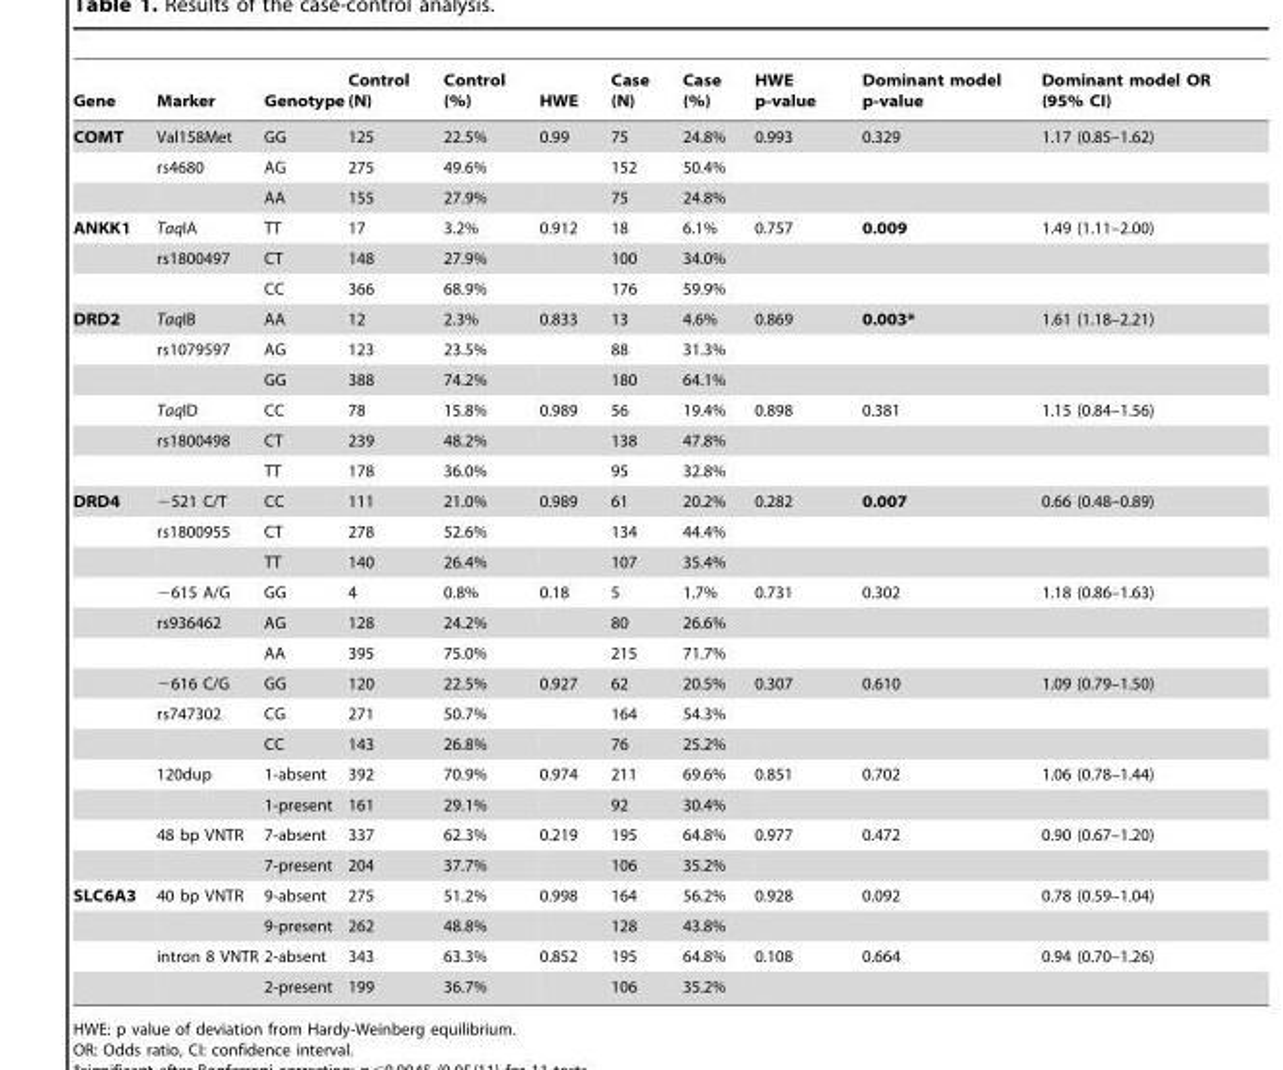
<table><thead><tr><td>Gene</td><td>Marker</td><td>Genotype</td><td>Control (N)</td><td>Control (%)</td><td>HWE</td><td>Case (N)</td><td>Case (%)</td><td>HWE p-value</td><td>Dominant model p-value</td><td>Dominant model OR (95% CI)</td></tr></thead><tbody><tr><td rowspan="3">COMT</td><td>Val158Met</td><td>GG</td><td>125</td><td>22.5%</td><td>0.99</td><td>75</td><td>24.8%</td><td>0.993</td><td>0.329</td><td>1.17 (0.85–1.62)</td></tr><tr><td>rs4680</td><td>AG</td><td>275</td><td>49.6%</td><td></td><td>152</td><td>50.4%</td><td></td><td></td><td></td></tr><tr><td></td><td>AA</td><td>155</td><td>27.9%</td><td></td><td>75</td><td>24.8%</td><td></td><td></td><td></td></tr><tr><td rowspan="3">ANKK1</td><td>TaqIA</td><td>TT</td><td>17</td><td>3.2%</td><td>0.912</td><td>18</td><td>6.1%</td><td>0.757</td><td>0.009</td><td>1.49 (1.11–2.00)</td></tr><tr><td>rs1800497</td><td>CT</td><td>148</td><td>27.9%</td><td></td><td>100</td><td>34.0%</td><td></td><td></td><td></td></tr><tr><td></td><td>CC</td><td>366</td><td>68.9%</td><td></td><td>176</td><td>59.9%</td><td></td><td></td><td></td></tr><tr><td rowspan="6">DRD2</td><td>TaqIB</td><td>AA</td><td>12</td><td>2.3%</td><td>0.833</td><td>13</td><td>4.6%</td><td>0.869</td><td>0.003*</td><td>1.61 (1.18–2.21)</td></tr><tr><td>rs1079597</td><td>AG</td><td>123</td><td>23.5%</td><td></td><td>88</td><td>31.3%</td><td></td><td></td><td></td></tr><tr><td></td><td>GG</td><td>388</td><td>74.2%</td><td></td><td>180</td><td>64.1%</td><td></td><td></td><td></td></tr><tr><td>TaqID</td><td>CC</td><td>78</td><td>15.8%</td><td>0.989</td><td>56</td><td>19.4%</td><td>0.898</td><td>0.381</td><td>1.15 (0.84–1.56)</td></tr><tr><td>rs1800498</td><td>CT</td><td>239</td><td>48.2%</td><td></td><td>138</td><td>47.8%</td><td></td><td></td><td></td></tr><tr><td></td><td>TT</td><td>178</td><td>36.0%</td><td></td><td>95</td><td>32.8%</td><td></td><td></td><td></td></tr><tr><td rowspan="13">DRD4</td><td>−521 C/T</td><td>CC</td><td>111</td><td>21.0%</td><td>0.989</td><td>61</td><td>20.2%</td><td>0.282</td><td>0.007</td><td>0.66 (0.48–0.89)</td></tr><tr><td>rs1800955</td><td>CT</td><td>278</td><td>52.6%</td><td></td><td>134</td><td>44.4%</td><td></td><td></td><td></td></tr><tr><td></td><td>TT</td><td>140</td><td>26.4%</td><td></td><td>107</td><td>35.4%</td><td></td><td></td><td></td></tr><tr><td>−615 A/G</td><td>GG</td><td>4</td><td>0.8%</td><td>0.18</td><td>5</td><td>1.7%</td><td>0.731</td><td>0.302</td><td>1.18 (0.86–1.63)</td></tr><tr><td>rs936462</td><td>AG</td><td>128</td><td>24.2%</td><td></td><td>80</td><td>26.6%</td><td></td><td></td><td></td></tr><tr><td></td><td>AA</td><td>395</td><td>75.0%</td><td></td><td>215</td><td>71.7%</td><td></td><td></td><td></td></tr><tr><td>−616 C/G</td><td>GG</td><td>120</td><td>22.5%</td><td>0.927</td><td>62</td><td>20.5%</td><td>0.307</td><td>0.610</td><td>1.09 (0.79–1.50)</td></tr><tr><td>rs747302</td><td>CG</td><td>271</td><td>50.7%</td><td></td><td>164</td><td>54.3%</td><td></td><td></td><td></td></tr><tr><td></td><td>CC</td><td>143</td><td>26.8%</td><td></td><td>76</td><td>25.2%</td><td></td><td></td><td></td></tr><tr><td>120dup</td><td>1-absent</td><td>392</td><td>70.9%</td><td>0.974</td><td>211</td><td>69.6%</td><td>0.851</td><td>0.702</td><td>1.06 (0.78–1.44)</td></tr><tr><td></td><td>1-present</td><td>161</td><td>29.1%</td><td></td><td>92</td><td>30.4%</td><td></td><td></td><td></td></tr><tr><td>48 bp VNTR</td><td>7-absent</td><td>337</td><td>62.3%</td><td>0.219</td><td>195</td><td>64.8%</td><td>0.977</td><td>0.472</td><td>0.90 (0.67–1.20)</td></tr><tr><td></td><td>7-present</td><td>204</td><td>37.7%</td><td></td><td>106</td><td>35.2%</td><td></td><td></td><td></td></tr><tr><td rowspan="4">SLC6A3</td><td>40 bp VNTR</td><td>9-absent</td><td>275</td><td>51.2%</td><td>0.998</td><td>164</td><td>56.2%</td><td>0.928</td><td>0.092</td><td>0.78 (0.59–1.04)</td></tr><tr><td></td><td>9-present</td><td>262</td><td>48.8%</td><td></td><td>128</td><td>43.8%</td><td></td><td></td><td></td></tr><tr><td>intron 8 VNTR</td><td>2-absent</td><td>343</td><td>63.3%</td><td>0.852</td><td>195</td><td>64.8%</td><td>0.108</td><td>0.664</td><td>0.94 (0.70–1.26)</td></tr><tr><td></td><td>2-present</td><td>199</td><td>36.7%</td><td></td><td>106</td><td>35.2%</td><td></td><td></td><td></td></tr></tbody></table>